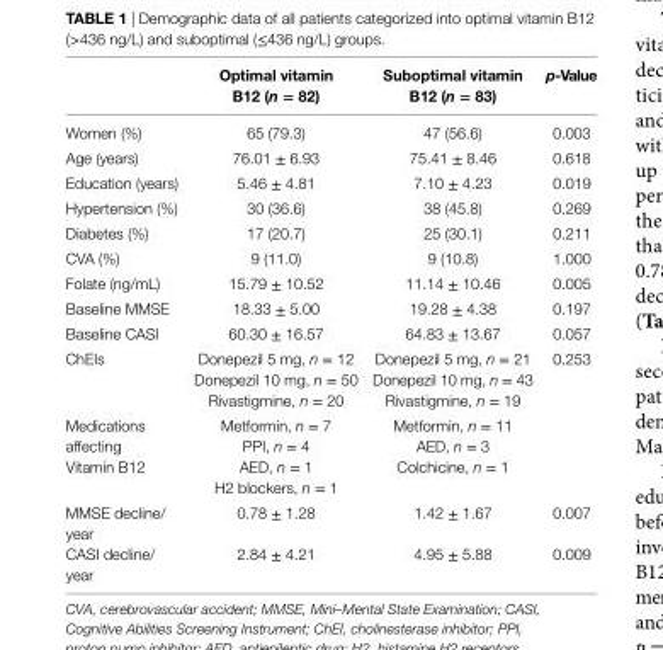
<table><thead><tr><td></td><td>Optimal vitamin B12 (n = 82)</td><td>suboptimal vitamin B12 (n = 83)</td><td>p-Value</td></tr></thead><tbody><tr><td>Women (%)</td><td>65 (79.3)</td><td>47 (56.6)</td><td>0.003</td></tr><tr><td>Age (years)</td><td>76.01 ± 6.93</td><td>75.41 ± 8.46</td><td>0.618</td></tr><tr><td>Education (years)</td><td>5.46 ± 4.81</td><td>7.10 ± 4.23</td><td>0.019</td></tr><tr><td>Hypertension (%)</td><td>30 (36.6)</td><td>38 (45.8)</td><td>0.269</td></tr><tr><td>Diabetes (%)</td><td>17 (20.7)</td><td>25 (30.1)</td><td>0.211</td></tr><tr><td>CVA (%)</td><td>9 (11.0)</td><td>9 (10.8)</td><td>1.000</td></tr><tr><td>Folate (ng/mL)</td><td>15.79 ± 10.52</td><td>11.14 ± 10.46</td><td>0.005</td></tr><tr><td>Baseline MMSE</td><td>18.33 ± 5.00</td><td>19.28 ± 4.38</td><td>0.197</td></tr><tr><td>Baseline CASI</td><td>60.30 ± 16.57</td><td>64.83 ± 13.67</td><td>0.057</td></tr><tr><td>ChEIs</td><td>Donepezil 5 mg, n = 12 Donepezil 10 mg, n = 50 Rivastigmine, n = 20</td><td>Donepezil 5 mg, n = 21 Donepezil 10 mg, n = 43 Rivastigmine, n = 19</td><td>0.253</td></tr><tr><td>Medications affecting Vitamin B12</td><td>Metformin, n = 7 PPI, n = 4 AED, n = 1 H2 blockers, n = 1</td><td>Metformin, n = 11 AED, n = 3 Colchicine, n = 1</td><td></td></tr><tr><td>MMSE decline/ year</td><td>0.78 ± 1.28</td><td>1.42 ± 1.67</td><td>0.007</td></tr><tr><td>CASI decline/ year</td><td>2.84 ± 4.21</td><td>4.95 ± 5.88</td><td>0.009</td></tr></tbody></table>